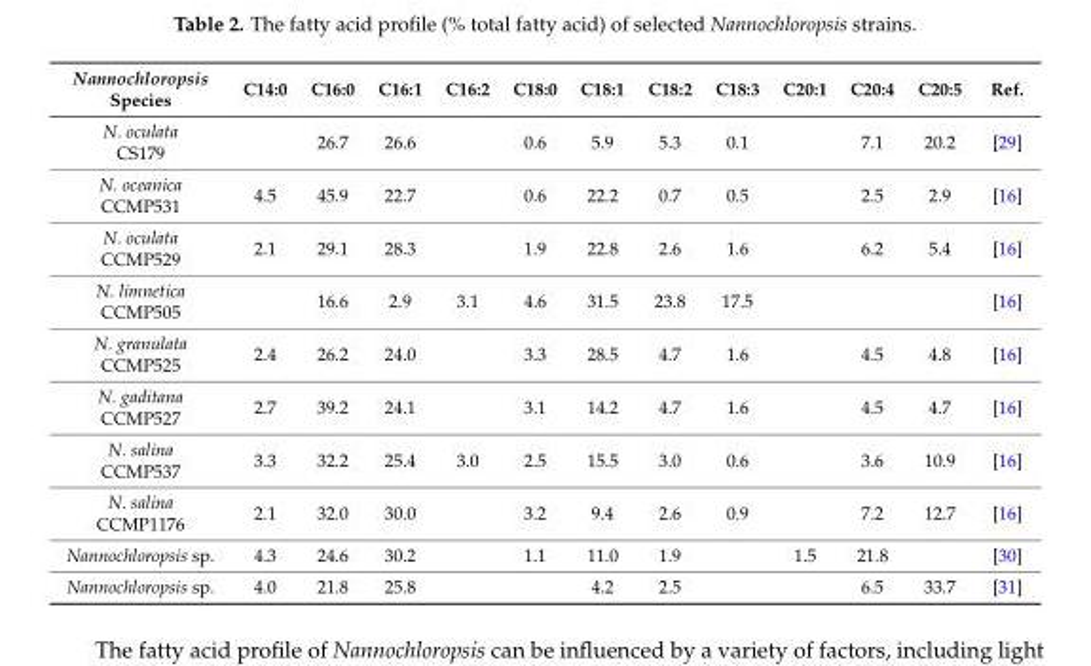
<table><thead><tr><td>Nannochloropsis Species</td><td>C14:0</td><td>C16:0</td><td>C16:1</td><td>C16:2</td><td>C18:0</td><td>C18:1</td><td>C18:2</td><td>C18:3</td><td>C20:1</td><td>C20:4</td><td>C20:5</td><td>Ref.</td></tr></thead><tbody><tr><td>N. oculata CS179</td><td></td><td>26.7</td><td>26.6</td><td></td><td>0.6</td><td>5.9</td><td>5.3</td><td>0.1</td><td></td><td>7.1</td><td>20.2</td><td>[29]</td></tr><tr><td>N. oceanica CCMP531</td><td>4.5</td><td>45.9</td><td>22.7</td><td></td><td>0.6</td><td>22.2</td><td>0.7</td><td>0.5</td><td></td><td>2.5</td><td>2.9</td><td>[16]</td></tr><tr><td>N. oculata CCMP529</td><td>2.1</td><td>29.1</td><td>28.3</td><td></td><td>1.9</td><td>22.8</td><td>2.6</td><td>1.6</td><td></td><td>6.2</td><td>5.4</td><td>[16]</td></tr><tr><td>N. limnetica CCMP505</td><td></td><td>16.6</td><td>2.9</td><td>3.1</td><td>4.6</td><td>31.5</td><td>23.8</td><td>17.5</td><td></td><td></td><td></td><td>[16]</td></tr><tr><td>N. granulata CCMP525</td><td>2.4</td><td>26.2</td><td>24.0</td><td></td><td>3.3</td><td>28.5</td><td>4.7</td><td>1.6</td><td></td><td>4.5</td><td>4.8</td><td>[16]</td></tr><tr><td>N. gaditana CCMP527</td><td>2.7</td><td>39.2</td><td>24.1</td><td></td><td>3.1</td><td>14.2</td><td>4.7</td><td>1.6</td><td></td><td>4.5</td><td>4.7</td><td>[16]</td></tr><tr><td>N. salina CCMP537</td><td>3.3</td><td>32.2</td><td>25.4</td><td>3.0</td><td>2.5</td><td>15.5</td><td>3.0</td><td>0.6</td><td></td><td>3.6</td><td>10.9</td><td>[16]</td></tr><tr><td>N. salina CCMP1176</td><td>2.1</td><td>32.0</td><td>30.0</td><td></td><td>3.2</td><td>9.4</td><td>2.6</td><td>0.9</td><td></td><td>7.2</td><td>12.7</td><td>[16]</td></tr><tr><td>Nannochloropsis sp.</td><td>4.3</td><td>24.6</td><td>30.2</td><td></td><td>1.1</td><td>11.0</td><td>1.9</td><td></td><td>1.5</td><td>21.8</td><td></td><td>[30]</td></tr><tr><td>Nannochloropsis sp.</td><td>4.0</td><td>21.8</td><td>25.8</td><td></td><td></td><td>4.2</td><td>2.5</td><td></td><td></td><td>6.5</td><td>33.7</td><td>[31]</td></tr></tbody></table>